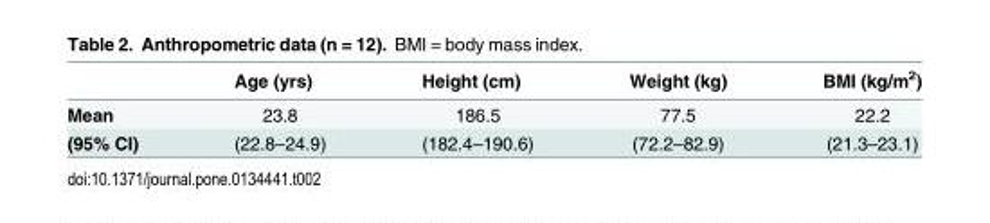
<table><thead><tr><td></td><td>Age (yrs)</td><td>Height (cm)</td><td>Weight (kg)</td><td>BMI (kg/m<sup>2</sup>)</td></tr></thead><tbody><tr><td>Mean</td><td>23.8</td><td>186.5</td><td>77.5</td><td>22.2</td></tr><tr><td>(95% CI)</td><td>(22.8–24.9)</td><td>(182.4–190.6)</td><td>(72.2–82.9)</td><td>(21.3–23.1)</td></tr></tbody></table>